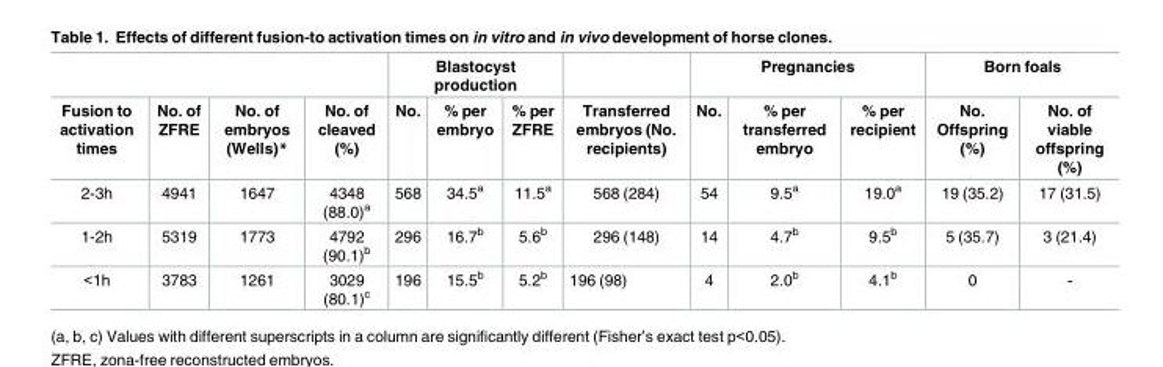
<table><thead><tr><td rowspan="2">Fusion to activation times</td><td rowspan="2">No. of ZFRE</td><td rowspan="2">No. of embryos (Wells)*</td><td rowspan="2">No. of cleaved (%)</td><td colspan="3">Blastocyst production</td><td rowspan="2">Transferred embryos (No. recipients)</td><td colspan="3">Pregnancies</td><td colspan="2">Born foals</td></tr><tr><td>No.</td><td>% per embryo</td><td>% per ZFRE</td><td>No.</td><td>% per transferred embryo</td><td>% per recipient</td><td>No. Offspring (%)</td><td>No. of viable offspring (%)</td></tr></thead><tbody><tr><td>2-3h</td><td>4941</td><td>1647</td><td>4348 (88.0)<sup>a</sup></td><td>568</td><td>34.5<sup>a</sup></td><td>11.5<sup>a</sup></td><td>568 (284)</td><td>54</td><td>9.5<sup>a</sup></td><td>19.0<sup>a</sup></td><td>19 (35.2)</td><td>17 (31.5)</td></tr><tr><td>1-2h</td><td>5319</td><td>1773</td><td>4792 (90.1)<sup>b</sup></td><td>296</td><td>16.7<sup>b</sup></td><td>5.6<sup>b</sup></td><td>296 (148)</td><td>14</td><td>4.7<sup>b</sup></td><td>9.5<sup>b</sup></td><td>5 (35.7)</td><td>3 (21.4)</td></tr><tr><td>&lt;1h</td><td>3783</td><td>1261</td><td>3029 (80.1)<sup>c</sup></td><td>196</td><td>15.5<sup>b</sup></td><td>5.2<sup>b</sup></td><td>196 (98)</td><td>4</td><td>2.0<sup>b</sup></td><td>4.1<sup>b</sup></td><td>0</td><td>-</td></tr></tbody></table>